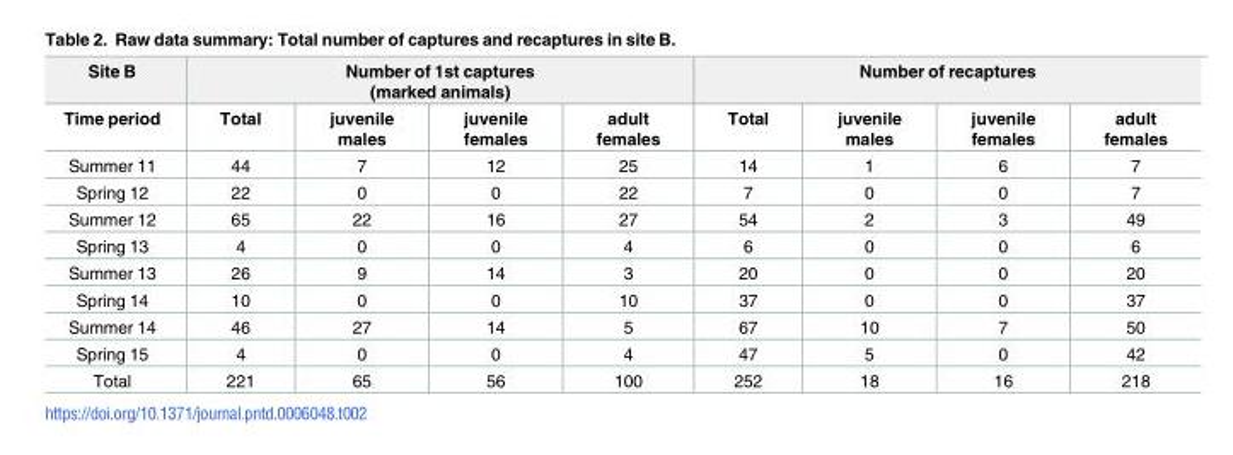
<table><thead><tr><td rowspan="2">Site B Time period</td><td colspan="4">Number of 1st captures (marked animals)</td><td colspan="4">Number of recaptures</td></tr><tr><td>Total</td><td>juvenile males</td><td>juvenile females</td><td>adult females</td><td>Total</td><td>juvenile males</td><td>juvenile females</td><td>adult females</td></tr></thead><tbody><tr><td>Summer 11</td><td>44</td><td>7</td><td>12</td><td>25</td><td>14</td><td>1</td><td>6</td><td>7</td></tr><tr><td>Spring 12</td><td>22</td><td>0</td><td>0</td><td>22</td><td>7</td><td>0</td><td>0</td><td>7</td></tr><tr><td>Summer 12</td><td>65</td><td>22</td><td>16</td><td>27</td><td>54</td><td>2</td><td>3</td><td>49</td></tr><tr><td>Spring 13</td><td>4</td><td>0</td><td>0</td><td>4</td><td>6</td><td>0</td><td>0</td><td>6</td></tr><tr><td>Summer 13</td><td>26</td><td>9</td><td>14</td><td>3</td><td>20</td><td>0</td><td>0</td><td>20</td></tr><tr><td>Spring 14</td><td>10</td><td>0</td><td>0</td><td>10</td><td>37</td><td>0</td><td>0</td><td>37</td></tr><tr><td>Summer 14</td><td>46</td><td>27</td><td>14</td><td>5</td><td>67</td><td>10</td><td>7</td><td>50</td></tr><tr><td>Spring 15</td><td>4</td><td>0</td><td>0</td><td>4</td><td>47</td><td>5</td><td>0</td><td>42</td></tr><tr><td>Total</td><td>221</td><td>65</td><td>56</td><td>100</td><td>252</td><td>18</td><td>16</td><td>218</td></tr></tbody></table>